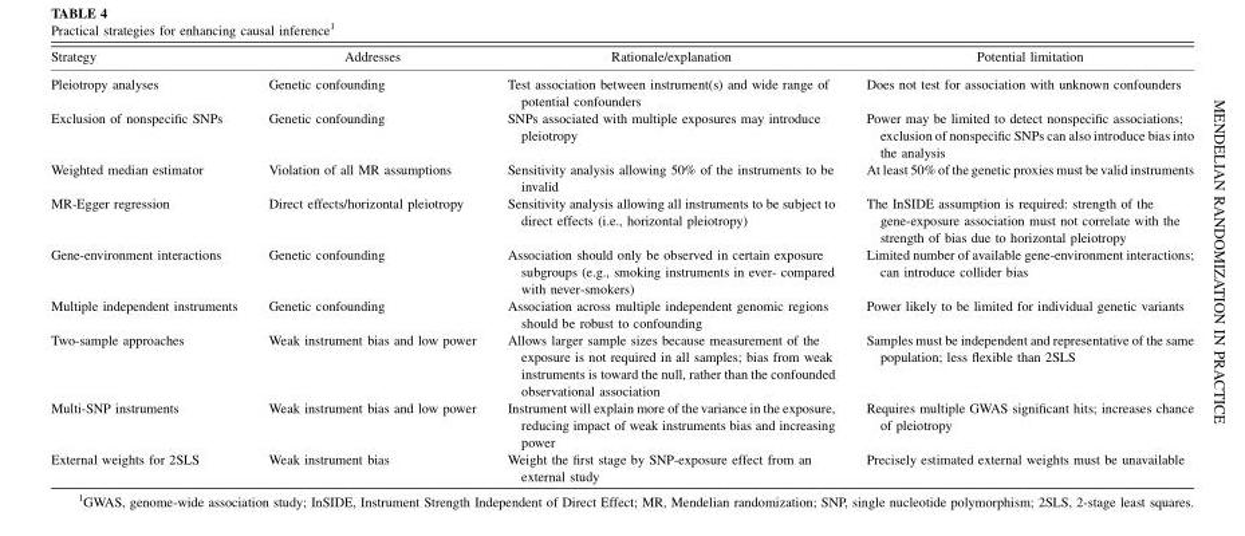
<table><thead><tr><td>Strategy</td><td>Addresses</td><td>Rationale/explanation</td><td>Potential limitation</td></tr></thead><tbody><tr><td>Pleiotropy analyses</td><td>Genetic confounding</td><td>Test association between instrument(s) and wide range of potential confounders</td><td>Does not test for association with unknown confounders</td></tr><tr><td>Exclusion of nonspecific SNPs</td><td>Genetic confounding</td><td>SNPs associated with multiple exposures may introduce pleiotropy</td><td>Power may be limited to detect nonspecific associations; exclusion of nonspecific SNPs can also introduce bias into the analysis</td></tr><tr><td>Weighted median estimator</td><td>Violation of all MR assumptions</td><td>Sensitivity analysis allowing 50% of the instruments to be invalid</td><td>At least 50% of the genetic proxies must be valid instruments</td></tr><tr><td>MR-Egger regression</td><td>Direct effects/horizontal pleiotropy</td><td>Sensitivity analysis allowing all instruments to be subject to direct effects (i.e., horizontal pleiotropy)</td><td>The InSIDE assumption is required: strength of the gene-exposure association must not correlate with the strength of bias due to horizontal pleiotropy</td></tr><tr><td>Gene-environment interactions</td><td>Genetic confounding</td><td>Association should only be observed in certain exposure subgroups (e.g., smoking instruments in ever- compared with never-smokers)</td><td>Limited number of available gene-environment interactions; can introduce collider bias</td></tr><tr><td>Multiple independent instruments</td><td>Genetic confounding</td><td>Association across multiple independent genomic regions should be robust to confounding</td><td>Power likely to be limited for individual genetic variants</td></tr><tr><td>Two-sample approaches</td><td>Weak instrument bias and low power</td><td>Allows larger sample sizes because measurement of the exposure is not required in all samples; bias from weak instruments is toward the null, rather than the confounded observational association</td><td>Samples must be independent and representative of the same population; less flexible than 2SLS</td></tr><tr><td>Multi-SNP instruments</td><td>Weak instrument bias and low power</td><td>Instrument will explain more of the variance in the exposure, reducing impact of weak instruments bias and increasing power</td><td>Requires multiple GWAS significant hits; increases chance of pleiotropy</td></tr><tr><td>External weights for 2SLS</td><td>Weak instrument bias</td><td>Weight the first stage by SNP-exposure effect from an external study</td><td>Precisely estimated external weights must be unavailable</td></tr></tbody></table>